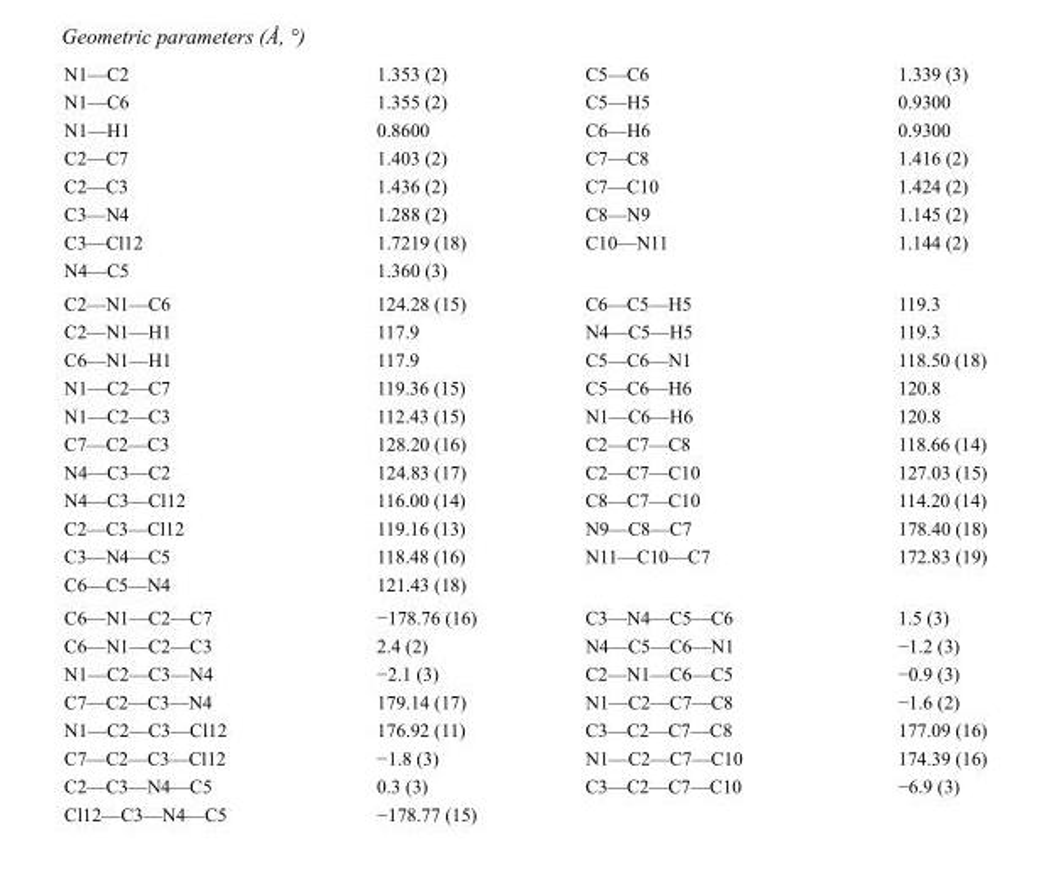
<table><tbody><tr><td>N1—C2</td><td>1.353 (2)</td><td>C5—C6</td><td>1.339 (3)</td></tr><tr><td>N1—C6</td><td>1.355 (2)</td><td>C5—H5</td><td>0.9300</td></tr><tr><td>N1—H1</td><td>0.8600</td><td>C6—H6</td><td>0.9300</td></tr><tr><td>C2—C7</td><td>1.403 (2)</td><td>C7—C8</td><td>1.416 (2)</td></tr><tr><td>C2—C3</td><td>1.436 (2)</td><td>C7—C10</td><td>1.424 (2)</td></tr><tr><td>C3—N4</td><td>1.288 (2)</td><td>C8—N9</td><td>1.145 (2)</td></tr><tr><td>C3—Cl12</td><td>1.7219 (18)</td><td>C10—N11</td><td>1.144 (2)</td></tr><tr><td>N4—C5</td><td>1.360 (3)</td><td></td><td></td></tr><tr><td>C2—N1—C6</td><td>124.28 (15)</td><td>C6—C5—H5</td><td>119.3</td></tr><tr><td>C2—N1—H1</td><td>117.9</td><td>N4—C5—H5</td><td>119.3</td></tr><tr><td>C6—N1—H1</td><td>117.9</td><td>C5—C6—N1</td><td>118.50 (18)</td></tr><tr><td>N1—C2—C7</td><td>119.36 (15)</td><td>C5—C6—H6</td><td>120.8</td></tr><tr><td>N1—C2—C3</td><td>112.43 (15)</td><td>N1—C6—H6</td><td>120.8</td></tr><tr><td>C7—C2—C3</td><td>128.20 (16)</td><td>C2—C7—C8</td><td>118.66 (14)</td></tr><tr><td>N4—C3—C2</td><td>124.83 (17)</td><td>C2—C7—C10</td><td>127.03 (15)</td></tr><tr><td>N4—C3—Cl12</td><td>116.00 (14)</td><td>C8—C7—C10</td><td>114.20 (14)</td></tr><tr><td>C2—C3—Cl12</td><td>119.16 (13)</td><td>N9—C8—C7</td><td>178.40 (18)</td></tr><tr><td>C3—N4—C5</td><td>118.48 (16)</td><td>N11—C10—C7</td><td>172.83 (19)</td></tr><tr><td>C6—C5—N4</td><td>121.43 (18)</td><td></td><td></td></tr><tr><td>C6—N1—C2—C7</td><td>−178.76 (16)</td><td>C3—N4—C5—C6</td><td>1.5 (3)</td></tr><tr><td>C6—N1—C2—C3</td><td>2.4 (2)</td><td>N4—C5—C6—N1</td><td>−1.2 (3)</td></tr><tr><td>N1—C2—C3—N4</td><td>−2.1 (3)</td><td>C2—N1—C6—C5</td><td>−0.9 (3)</td></tr><tr><td>C7—C2—C3—N4</td><td>179.14 (17)</td><td>N1—C2—C7—C8</td><td>−1.6 (2)</td></tr><tr><td>N1—C2—C3—Cl12</td><td>176.92 (11)</td><td>C3—C2—C7—C8</td><td>177.09 (16)</td></tr><tr><td>C7—C2—C3—Cl12</td><td>−1.8 (3)</td><td>N1—C2—C7—C10</td><td>174.39 (16)</td></tr><tr><td>C2—C3—N4—C5</td><td>0.3 (3)</td><td>C3—C2—C7—C10</td><td>−6.9 (3)</td></tr><tr><td>Cl12—C3—N4—C5</td><td>−178.77 (15)</td><td></td><td></td></tr></tbody></table>